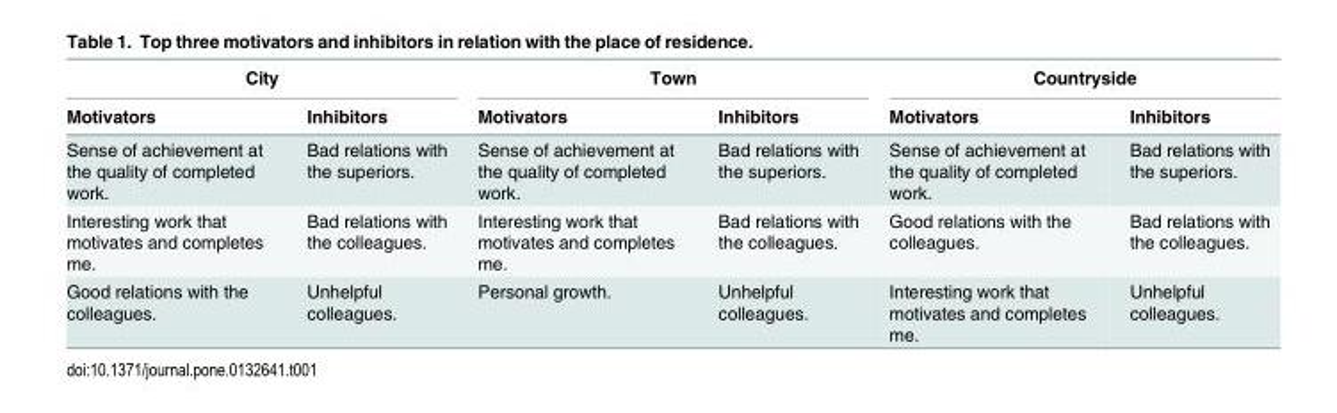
<table><thead><tr><td colspan="2">City</td><td colspan="2">Town</td><td colspan="2">Countryside</td></tr><tr><td>Motivators</td><td>Inhibitors</td><td>Motivators</td><td>Inhibitors</td><td>Motivators</td><td>Inhibitors</td></tr></thead><tbody><tr><td>Sense of achievement at the quality of completed work.</td><td>Bad relations with the superiors.</td><td>Sense of achievement at the quality of completed work.</td><td>Bad relations with the superiors.</td><td>Sense of achievement at the quality of completed work.</td><td>Bad relations with the superiors.</td></tr><tr><td>Interesting work that motivates and completes me.</td><td>Bad relations with the colleagues.</td><td>Interesting work that motivates and completes me.</td><td>Bad relations with the colleagues.</td><td>Good relations with the colleagues.</td><td>Bad relations with the colleagues.</td></tr><tr><td>Good relations with the colleagues.</td><td>Unhelpful colleagues.</td><td>Personal growth.</td><td>Unhelpful colleagues.</td><td>Interesting work that motivates and completes me.</td><td>Unhelpful colleagues.</td></tr></tbody></table>